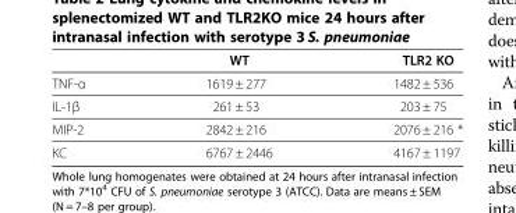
<table><thead><tr><td></td><td>WT</td><td>TLR2 KO</td></tr></thead><tbody><tr><td>TNF-α</td><td>1619 ± 277</td><td>1482 ± 536</td></tr><tr><td>IL-1β</td><td>261 ± 53</td><td>203 ± 75</td></tr><tr><td>MIP-2</td><td>2842 ± 216</td><td>2076 ± 216 *</td></tr><tr><td>KC</td><td>6767 ± 2446</td><td>4167 ± 1197</td></tr></tbody></table>